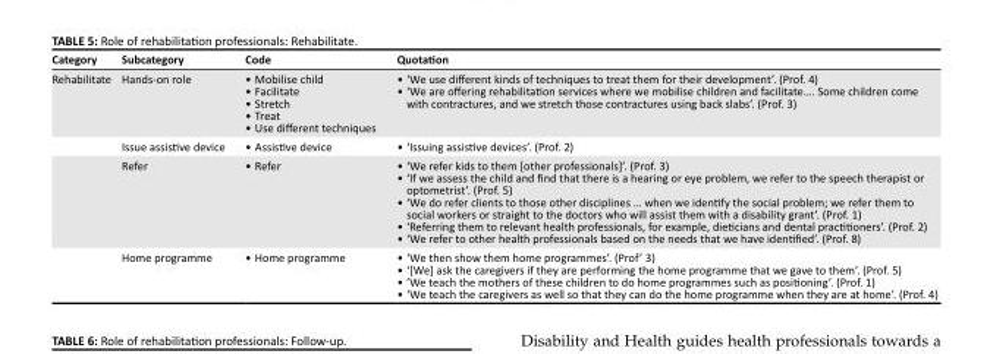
<table><thead><tr><td>Category</td><td>Subcategory</td><td>Code</td><td>Quotation</td></tr></thead><tbody><tr><td rowspan="4">Rehabilitate</td><td>Hands-on role</td><td>• Mobilise child • Facilitate • Stretch • Treat • Use different techniques</td><td>• ‘We use different kinds of techniques to treat them for their development’. (Prof. 4) • ‘We are offering rehabilitation services where we mobilise children and facilitate.… Some children come with contractures, and we stretch those contractures using back slabs’. (Prof. 3)</td></tr><tr><td>Issue assistive device</td><td>• Assistive device</td><td>• ‘Issuing assistive devices’. (Prof. 2)</td></tr><tr><td>Refer</td><td>• Refer</td><td>• ‘We refer kids to them [other professionals]’. (Prof. 3) • ‘If we assess the child and find that there is a hearing or eye problem, we refer to the speech therapist or optometrist’. (Prof. 5) • ‘We do refer clients to those other disciplines … when we identify the social problem; we refer them to social workers or straight to the doctors who will assist them with a disability grant’. (Prof. 1) • ‘Referring them to relevant health professionals, for example, dieticians and dental practitioners’. (Prof. 2) • ‘We refer to other health professionals based on the needs that we have identified’. (Prof. 8)</td></tr><tr><td>Home programme</td><td>• Home programme</td><td>• ‘We then show them home programmes’. (Prof’ 3) • ‘[We] ask the caregivers if they are performing the home programme that we gave to them’. (Prof. 5) • ’We teach the mothers of these children to do home programmes such as positioning’. (Prof. 1) • ‘We teach the caregivers as well so that they can do the home programme when they are at home’. (Prof. 4)</td></tr></tbody></table>